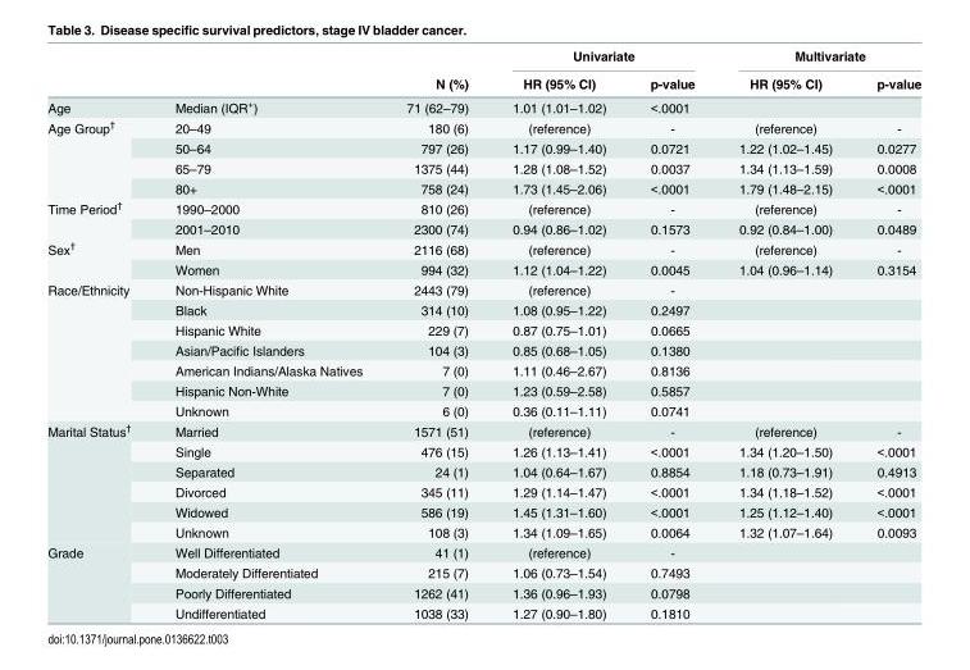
<table><thead><tr><td rowspan="2"></td><td rowspan="2"></td><td rowspan="2">N (%)</td><td colspan="2">Univariate</td><td colspan="2">Multivariate</td></tr><tr><td>HR (95% CI)</td><td>p-value</td><td>HR (95% CI)</td><td>p-value</td></tr></thead><tbody><tr><td>Age</td><td>Median (IQR<sup>+</sup>)</td><td>71 (62–79)</td><td>1.01 (1.01–1.02)</td><td>&lt;.0001</td><td></td><td></td></tr><tr><td rowspan="4">Age Group<sup>†</sup></td><td>20–49</td><td>180 (6)</td><td>(reference)</td><td>-</td><td>(reference)</td><td>-</td></tr><tr><td>50–64</td><td>797 (26)</td><td>1.17 (0.99–1.40)</td><td>0.0721</td><td>1.22 (1.02–1.45)</td><td>0.0277</td></tr><tr><td>65–79</td><td>1375 (44)</td><td>1.28 (1.08–1.52)</td><td>0.0037</td><td>1.34 (1.13–1.59)</td><td>0.0008</td></tr><tr><td>80+</td><td>758 (24)</td><td>1.73 (1.45–2.06)</td><td>&lt;.0001</td><td>1.79 (1.48–2.15)</td><td>&lt;.0001</td></tr><tr><td rowspan="2">Time Period<sup>†</sup></td><td>1990–2000</td><td>810 (26)</td><td>(reference)</td><td>-</td><td>(reference)</td><td>-</td></tr><tr><td>2001–2010</td><td>2300 (74)</td><td>0.94 (0.86–1.02)</td><td>0.1573</td><td>0.92 (0.84–1.00)</td><td>0.0489</td></tr><tr><td rowspan="2">Sex<sup>†</sup></td><td>Men</td><td>2116 (68)</td><td>(reference)</td><td>-</td><td>(reference)</td><td>-</td></tr><tr><td>Women</td><td>994 (32)</td><td>1.12 (1.04–1.22)</td><td>0.0045</td><td>1.04 (0.96–1.14)</td><td>0.3154</td></tr><tr><td rowspan="7">Race/Ethnicity</td><td>Non-Hispanic White</td><td>2443 (79)</td><td>(reference)</td><td>-</td><td></td><td></td></tr><tr><td>Black</td><td>314 (10)</td><td>1.08 (0.95–1.22)</td><td>0.2497</td><td></td><td></td></tr><tr><td>Hispanic White</td><td>229 (7)</td><td>0.87 (0.75–1.01)</td><td>0.0665</td><td></td><td></td></tr><tr><td>Asian/Pacific Islanders</td><td>104 (3)</td><td>0.85 (0.68–1.05)</td><td>0.1380</td><td></td><td></td></tr><tr><td>American Indians/Alaska Natives</td><td>7 (0)</td><td>1.11 (0.46–2.67)</td><td>0.8136</td><td></td><td></td></tr><tr><td>Hispanic Non-White</td><td>7 (0)</td><td>1.23 (0.59–2.58)</td><td>0.5857</td><td></td><td></td></tr><tr><td>Unknown</td><td>6 (0)</td><td>0.36 (0.11–1.11)</td><td>0.0741</td><td></td><td></td></tr><tr><td rowspan="6">Marital Status<sup>†</sup></td><td>Married</td><td>1571 (51)</td><td>(reference)</td><td>-</td><td>(reference)</td><td>-</td></tr><tr><td>Single</td><td>476 (15)</td><td>1.26 (1.13–1.41)</td><td>&lt;.0001</td><td>1.34 (1.20–1.50)</td><td>&lt;.0001</td></tr><tr><td>Separated</td><td>24 (1)</td><td>1.04 (0.64–1.67)</td><td>0.8854</td><td>1.18 (0.73–1.91)</td><td>0.4913</td></tr><tr><td>Divorced</td><td>345 (11)</td><td>1.29 (1.14–1.47)</td><td>&lt;.0001</td><td>1.34 (1.18–1.52)</td><td>&lt;.0001</td></tr><tr><td>Widowed</td><td>586 (19)</td><td>1.45 (1.31–1.60)</td><td>&lt;.0001</td><td>1.25 (1.12–1.40)</td><td>&lt;.0001</td></tr><tr><td>Unknown</td><td>108 (3)</td><td>1.34 (1.09–1.65)</td><td>0.0064</td><td>1.32 (1.07–1.64)</td><td>0.0093</td></tr><tr><td rowspan="4">Grade</td><td>Well Differentiated</td><td>41 (1)</td><td>(reference)</td><td>-</td><td></td><td></td></tr><tr><td>Moderately Differentiated</td><td>215 (7)</td><td>1.06 (0.73–1.54)</td><td>0.7493</td><td></td><td></td></tr><tr><td>Poorly Differentiated</td><td>1262 (41)</td><td>1.36 (0.96–1.93)</td><td>0.0798</td><td></td><td></td></tr><tr><td>Undifferentiated</td><td>1038 (33)</td><td>1.27 (0.90–1.80)</td><td>0.1810</td><td></td><td></td></tr></tbody></table>